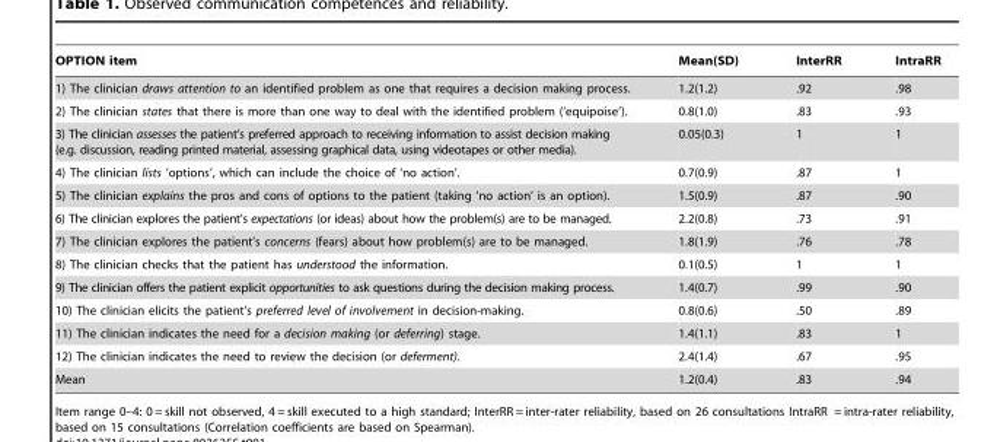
<table><thead><tr><td>OPTION item</td><td>Mean(SD)</td><td>InterRR</td><td>IntraRR</td></tr></thead><tbody><tr><td>1) The clinician draws attention to an identified problem as one that requires a decision making process.</td><td>1.2(1.2)</td><td>.92</td><td>.98</td></tr><tr><td>2) The clinician states that there is more than one way to deal with the identified problem (‘equipoise’).</td><td>0.8(1.0)</td><td>.83</td><td>.93</td></tr><tr><td>3) The clinician assesses the patient’s preferred approach to receiving information to assist decision making (e.g. discussion, reading printed material, assessing graphical data, using videotapes or other media).</td><td>0.05(0.3)</td><td>1</td><td>1</td></tr><tr><td>4) The clinician lists ‘options’, which can include the choice of ‘no action’.</td><td>0.7(0.9)</td><td>.87</td><td>1</td></tr><tr><td>5) The clinician explains the pros and cons of options to the patient (taking ‘no action’ is an option).</td><td>1.5(0.9)</td><td>.87</td><td>.90</td></tr><tr><td>6) The clinician explores the patient’s expectations (or ideas) about how the problem(s) are to be managed.</td><td>2.2(0.8)</td><td>.73</td><td>.91</td></tr><tr><td>7) The clinician explores the patient’s concerns (fears) about how problem(s) are to be managed.</td><td>1.8(1.9)</td><td>.76</td><td>.78</td></tr><tr><td>8) The clinician checks that the patient has understood the information.</td><td>0.1(0.5)</td><td>1</td><td>1</td></tr><tr><td>9) The clinician offers the patient explicit opportunities to ask questions during the decision making process.</td><td>1.4(0.7)</td><td>.99</td><td>.90</td></tr><tr><td>10) The clinician elicits the patient’s preferred level of involvement in decision-making.</td><td>0.8(0.6)</td><td>.50</td><td>.89</td></tr><tr><td>11) The clinician indicates the need for a decision making (or deferring) stage.</td><td>1.4(1.1)</td><td>.83</td><td>1</td></tr><tr><td>12) The clinician indicates the need to review the decision (or deferment).</td><td>2.4(1.4)</td><td>.67</td><td>.95</td></tr><tr><td>Mean</td><td>1.2(0.4)</td><td>.83</td><td>.94</td></tr></tbody></table>